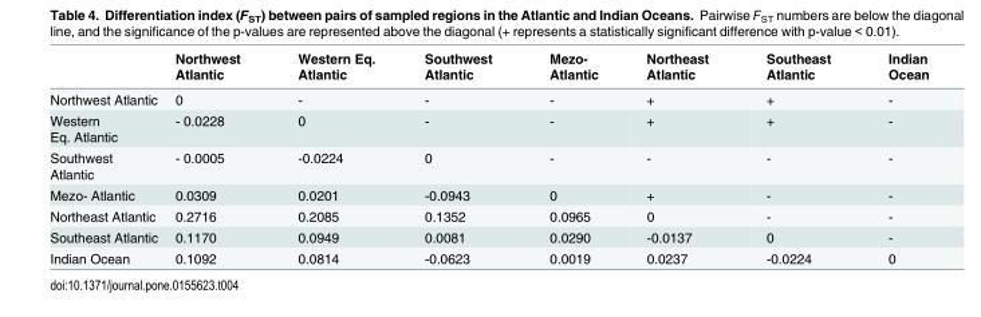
<table><thead><tr><td></td><td>Northwest Atlantic</td><td>Western Eq. Atlantic</td><td>Southwest Atlantic</td><td>Mezo- Atlantic</td><td>Northeast Atlantic</td><td>Southeast Atlantic</td><td>Indian Ocean</td></tr></thead><tbody><tr><td>Northwest Atlantic</td><td>0</td><td>-</td><td>-</td><td>-</td><td>+</td><td>+</td><td>-</td></tr><tr><td>Western Eq. Atlantic</td><td>- 0.0228</td><td>0</td><td>-</td><td>-</td><td>+</td><td>+</td><td>-</td></tr><tr><td>Southwest Atlantic</td><td>- 0.0005</td><td>-0.0224</td><td>0</td><td>-</td><td>-</td><td>-</td><td>-</td></tr><tr><td>Mezo- Atlantic</td><td>0.0309</td><td>0.0201</td><td>-0.0943</td><td>0</td><td>+</td><td>-</td><td>-</td></tr><tr><td>Northeast Atlantic</td><td>0.2716</td><td>0.2085</td><td>0.1352</td><td>0.0965</td><td>0</td><td>-</td><td>-</td></tr><tr><td>Southeast Atlantic</td><td>0.1170</td><td>0.0949</td><td>0.0081</td><td>0.0290</td><td>-0.0137</td><td>0</td><td>-</td></tr><tr><td>Indian Ocean</td><td>0.1092</td><td>0.0814</td><td>-0.0623</td><td>0.0019</td><td>0.0237</td><td>-0.0224</td><td>0</td></tr></tbody></table>